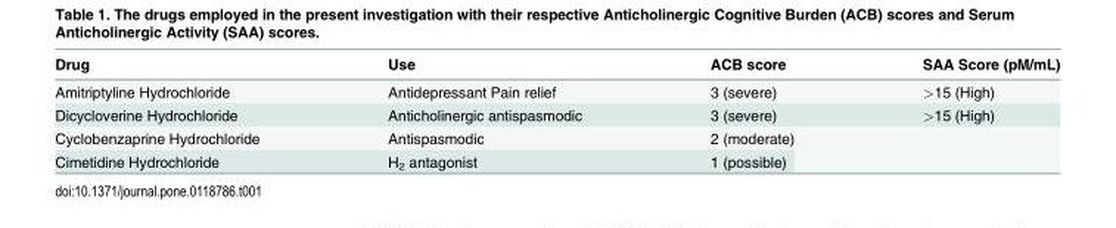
<table><thead><tr><td>Drug</td><td>Use</td><td>ACB score</td><td>SAA Score (pM/mL)</td></tr></thead><tbody><tr><td>Amitriptyline Hydrochloride</td><td>Antidepressant Pain relief</td><td>3 (severe)</td><td>&gt;15 (High)</td></tr><tr><td>Dicycloverine Hydrochloride</td><td>Anticholinergic antispasmodic</td><td>3 (severe)</td><td>&gt;15 (High)</td></tr><tr><td>Cyclobenzaprine Hydrochloride</td><td>Antispasmodic</td><td>2 (moderate)</td><td rowspan="2"></td></tr><tr><td>Cimetidine Hydrochloride</td><td>H<sub>2</sub> antagonist</td><td>1 (possible)</td></tr></tbody></table>